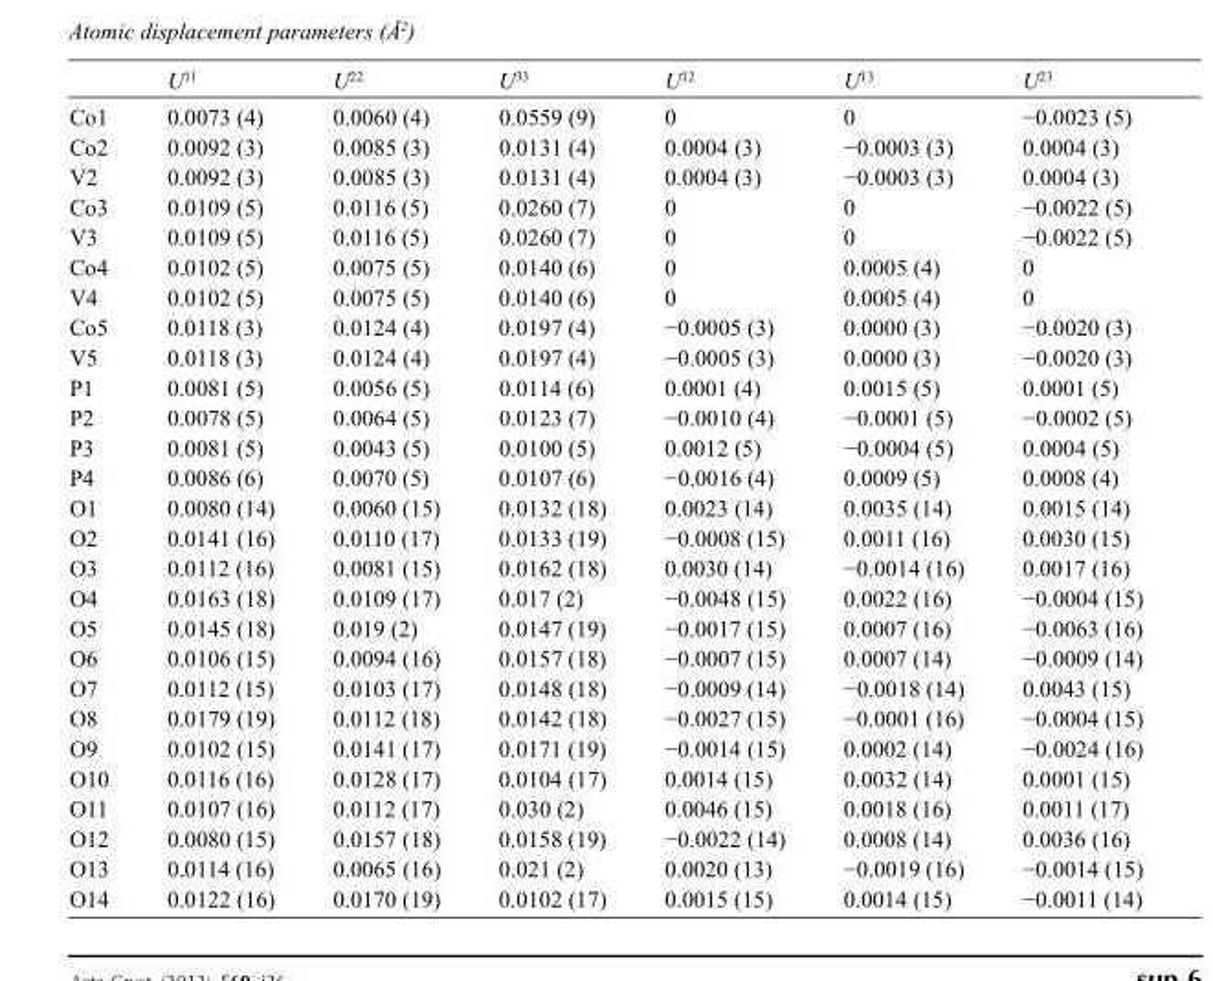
<table><thead><tr><td></td><td>U<sup>11</sup></td><td>U<sup>22</sup></td><td>U<sup>33</sup></td><td>U<sup>12</sup></td><td>U<sup>13</sup></td><td>U<sup>23</sup></td></tr></thead><tbody><tr><td>Co1</td><td>0.0073 (4)</td><td>0.0060 (4)</td><td>0.0559 (9)</td><td>0</td><td>0</td><td>−0.0023 (5)</td></tr><tr><td>Co2</td><td>0.0092 (3)</td><td>0.0085 (3)</td><td>0.0131 (4)</td><td>0.0004 (3)</td><td>−0.0003 (3)</td><td>0.0004 (3)</td></tr><tr><td>V2</td><td>0.0092 (3)</td><td>0.0085 (3)</td><td>0.0131 (4)</td><td>0.0004 (3)</td><td>−0.0003 (3)</td><td>0.0004 (3)</td></tr><tr><td>Co3</td><td>0.0109 (5)</td><td>0.0116 (5)</td><td>0.0260 (7)</td><td>0</td><td>0</td><td>−0.0022 (5)</td></tr><tr><td>V3</td><td>0.0109 (5)</td><td>0.0116 (5)</td><td>0.0260 (7)</td><td>0</td><td>0</td><td>−0.0022 (5)</td></tr><tr><td>Co4</td><td>0.0102 (5)</td><td>0.0075 (5)</td><td>0.0140 (6)</td><td>0</td><td>0.0005 (4)</td><td>0</td></tr><tr><td>V4</td><td>0.0102 (5)</td><td>0.0075 (5)</td><td>0.0140 (6)</td><td>0</td><td>0.0005 (4)</td><td>0</td></tr><tr><td>Co5</td><td>0.0118 (3)</td><td>0.0124 (4)</td><td>0.0197 (4)</td><td>−0.0005 (3)</td><td>0.0000 (3)</td><td>−0.0020 (3)</td></tr><tr><td>V5</td><td>0.0118 (3)</td><td>0.0124 (4)</td><td>0.0197 (4)</td><td>−0.0005 (3)</td><td>0.0000 (3)</td><td>−0.0020 (3)</td></tr><tr><td>P1</td><td>0.0081 (5)</td><td>0.0056 (5)</td><td>0.0114 (6)</td><td>0.0001 (4)</td><td>0.0015 (5)</td><td>0.0001 (5)</td></tr><tr><td>P2</td><td>0.0078 (5)</td><td>0.0064 (5)</td><td>0.0123 (7)</td><td>−0.0010 (4)</td><td>−0.0001 (5)</td><td>−0.0002 (5)</td></tr><tr><td>P3</td><td>0.0081 (5)</td><td>0.0043 (5)</td><td>0.0100 (5)</td><td>0.0012 (5)</td><td>−0.0004 (5)</td><td>0.0004 (5)</td></tr><tr><td>P4</td><td>0.0086 (6)</td><td>0.0070 (5)</td><td>0.0107 (6)</td><td>−0.0016 (4)</td><td>0.0009 (5)</td><td>0.0008 (4)</td></tr><tr><td>O1</td><td>0.0080 (14)</td><td>0.0060 (15)</td><td>0.0132 (18)</td><td>0.0023 (14)</td><td>0.0035 (14)</td><td>0.0015 (14)</td></tr><tr><td>O2</td><td>0.0141 (16)</td><td>0.0110 (17)</td><td>0.0133 (19)</td><td>−0.0008 (15)</td><td>0.0011 (16)</td><td>0.0030 (15)</td></tr><tr><td>O3</td><td>0.0112 (16)</td><td>0.0081 (15)</td><td>0.0162 (18)</td><td>0.0030 (14)</td><td>−0.0014 (16)</td><td>0.0017 (16)</td></tr><tr><td>O4</td><td>0.0163 (18)</td><td>0.0109 (17)</td><td>0.017 (2)</td><td>−0.0048 (15)</td><td>0.0022 (16)</td><td>−0.0004 (15)</td></tr><tr><td>O5</td><td>0.0145 (18)</td><td>0.019 (2)</td><td>0.0147 (19)</td><td>−0.0017 (15)</td><td>0.0007 (16)</td><td>−0.0063 (16)</td></tr><tr><td>O6</td><td>0.0106 (15)</td><td>0.0094 (16)</td><td>0.0157 (18)</td><td>−0.0007 (15)</td><td>0.0007 (14)</td><td>−0.0009 (14)</td></tr><tr><td>O7</td><td>0.0112 (15)</td><td>0.0103 (17)</td><td>0.0148 (18)</td><td>−0.0009 (14)</td><td>−0.0018 (14)</td><td>0.0043 (15)</td></tr><tr><td>O8</td><td>0.0179 (19)</td><td>0.0112 (18)</td><td>0.0142 (18)</td><td>−0.0027 (15)</td><td>−0.0001 (16)</td><td>−0.0004 (15)</td></tr><tr><td>O9</td><td>0.0102 (15)</td><td>0.0141 (17)</td><td>0.0171 (19)</td><td>−0.0014 (15)</td><td>0.0002 (14)</td><td>−0.0024 (16)</td></tr><tr><td>O10</td><td>0.0116 (16)</td><td>0.0128 (17)</td><td>0.0104 (17)</td><td>0.0014 (15)</td><td>0.0032 (14)</td><td>0.0001 (15)</td></tr><tr><td>O11</td><td>0.0107 (16)</td><td>0.0112 (17)</td><td>0.030 (2)</td><td>0.0046 (15)</td><td>0.0018 (16)</td><td>0.0011 (17)</td></tr><tr><td>O12</td><td>0.0080 (15)</td><td>0.0157 (18)</td><td>0.0158 (19)</td><td>−0.0022 (14)</td><td>0.0008 (14)</td><td>0.0036 (16)</td></tr><tr><td>O13</td><td>0.0114 (16)</td><td>0.0065 (16)</td><td>0.021 (2)</td><td>0.0020 (13)</td><td>−0.0019 (16)</td><td>−0.0014 (15)</td></tr><tr><td>O14</td><td>0.0122 (16)</td><td>0.0170 (19)</td><td>0.0102 (17)</td><td>0.0015 (15)</td><td>0.0014 (15)</td><td>−0.0011 (14)</td></tr></tbody></table>